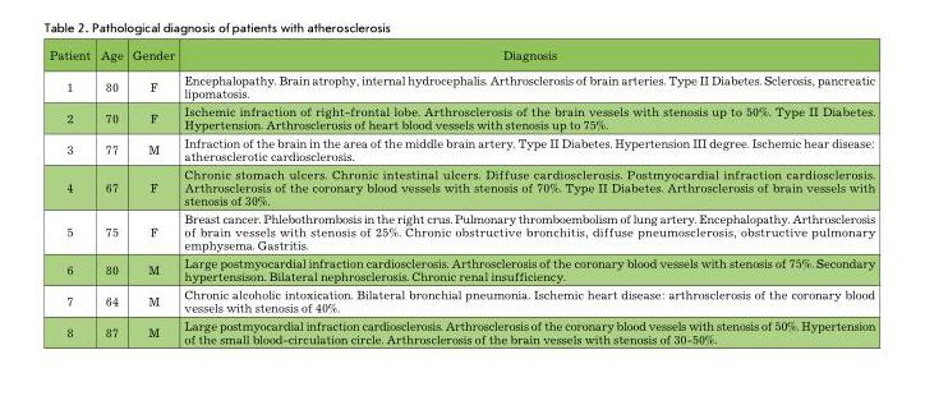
<table><thead><tr><td>Patient</td><td>Age</td><td>Gender</td><td>Diagnosis</td></tr></thead><tbody><tr><td>1</td><td>80</td><td>F</td><td>encephalopathy. Brain atrophy, internal hydrocephalis. Arthrosclerosis of brain arteries. type II Diabetes. Sclerosis, pancreatic lipomatosis.</td></tr><tr><td>2</td><td>70</td><td>F</td><td>Ischemic infraction of right-frontal lobe. Arthrosclerosis of the brain vessels with stenosis up to 50%. type II Diabetes. Hypertension. Arthrosclerosis of heart blood vessels with stenosis up to 75%.</td></tr><tr><td>3</td><td>77</td><td>M</td><td>Infraction of the brain in the area of the middle brain artery. type II Diabetes. Hypertension III degree. Ischemic hear disease: atherosclerotic cardiosclerosis.</td></tr><tr><td>4</td><td>67</td><td>F</td><td>chronic stomach ulcers. chronic intestinal ulcers. Diffuse cardiosclerosis. Postmyocardial infraction cardiosclerosis. Arthrosclerosis of the coronary blood vessels with stenosis of 70%. type II Diabetes. Arthrosclerosis of brain vessels with stenosis of 30%.</td></tr><tr><td>5</td><td>75</td><td>F</td><td>Breast cancer. Phlebothrombosis in the right crus. Pulmonary thromboembolism of lung artery. encephalopathy. Arthrosclerosis of brain vessels with stenosis of 25%. chronic obstructive bronchitis, diffuse pneumosclerosis, obstructive pulmonary emphysema. Gastritis.</td></tr><tr><td>6</td><td>80</td><td>M</td><td>Large postmyocardial infraction cardiosclerosis. Arthrosclerosis of the coronary blood vessels with stenosis of 75%. Secondary hypertensison. Bilateral nephrosclerosis. chronic renal insufficiency.</td></tr><tr><td>7</td><td>64</td><td>M</td><td>chronic alcoholic intoxication. Bilateral bronchial pneumonia. Ischemic heart disease: arthrosclerosis of the coronary blood vessels with stenosis of 40%.</td></tr><tr><td>8</td><td>87</td><td>M</td><td>Large postmyocardial infraction cardiosclerosis. Arthrosclerosis of the coronary blood vessels with stenosis of 50%. Hypertension of the small blood-circulation circle. Arthrosclerosis of the brain vessels with stenosis of 30-50%.</td></tr></tbody></table>